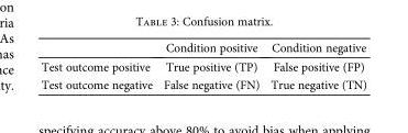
<table><thead><tr><td></td><td>Condition positive</td><td>Condition negative</td></tr></thead><tbody><tr><td>Test outcome positive</td><td>True positive (TP)</td><td>False positive (FP)</td></tr><tr><td>Test outcome negative</td><td>False negative (FN)</td><td>True negative (TN)</td></tr></tbody></table>